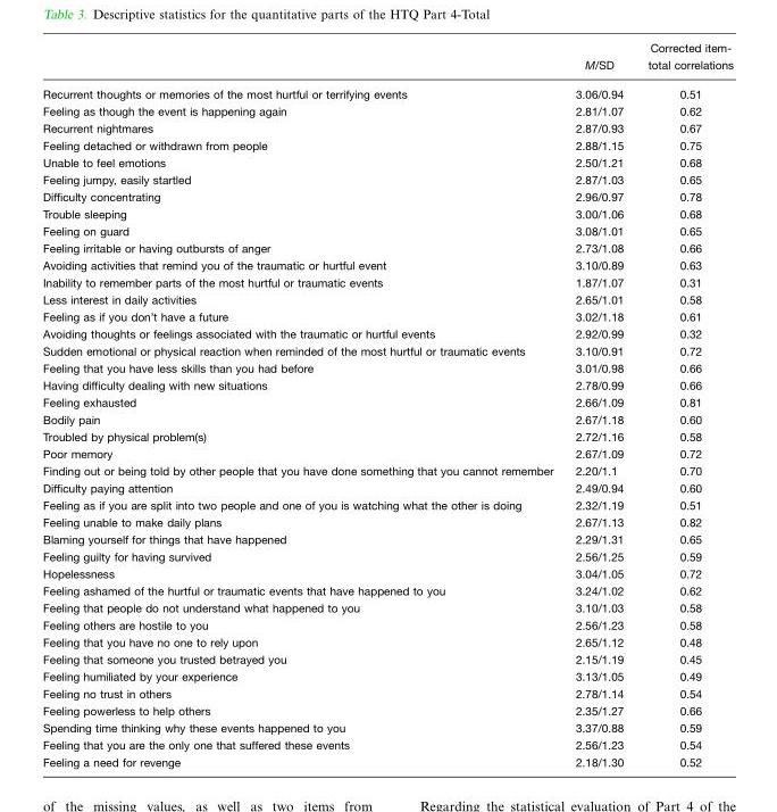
<table><thead><tr><td></td><td>M/SD</td><td>Corrected item- total correlations</td></tr></thead><tbody><tr><td>Recurrent thoughts or memories of the most hurtful or terrifying events</td><td>3.06/0.94</td><td>0.51</td></tr><tr><td>Feeling as though the event is happening again</td><td>2.81/1.07</td><td>0.62</td></tr><tr><td>Recurrent nightmares</td><td>2.87/0.93</td><td>0.67</td></tr><tr><td>Feeling detached or withdrawn from people</td><td>2.88/1.15</td><td>0.75</td></tr><tr><td>Unable to feel emotions</td><td>2.50/1.21</td><td>0.68</td></tr><tr><td>Feeling jumpy, easily startled</td><td>2.87/1.03</td><td>0.65</td></tr><tr><td>Difficulty concentrating</td><td>2.96/0.97</td><td>0.78</td></tr><tr><td>Trouble sleeping</td><td>3.00/1.06</td><td>0.68</td></tr><tr><td>Feeling on guard</td><td>3.08/1.01</td><td>0.65</td></tr><tr><td>Feeling irritable or having outbursts of anger</td><td>2.73/1.08</td><td>0.66</td></tr><tr><td>Avoiding activities that remind you of the traumatic or hurtful event</td><td>3.10/0.89</td><td>0.63</td></tr><tr><td>Inability to remember parts of the most hurtful or traumatic events</td><td>1.87/1.07</td><td>0.31</td></tr><tr><td>Less interest in daily activities</td><td>2.65/1.01</td><td>0.58</td></tr><tr><td>Feeling as if you don’t have a future</td><td>3.02/1.18</td><td>0.61</td></tr><tr><td>Avoiding thoughts or feelings associated with the traumatic or hurtful events</td><td>2.92/0.99</td><td>0.32</td></tr><tr><td>Sudden emotional or physical reaction when reminded of the most hurtful or traumatic events</td><td>3.10/0.91</td><td>0.72</td></tr><tr><td>Feeling that you have less skills than you had before</td><td>3.01/0.98</td><td>0.66</td></tr><tr><td>Having difficulty dealing with new situations</td><td>2.78/0.99</td><td>0.66</td></tr><tr><td>Feeling exhausted</td><td>2.66/1.09</td><td>0.81</td></tr><tr><td>Bodily pain</td><td>2.67/1.18</td><td>0.60</td></tr><tr><td>Troubled by physical problem(s)</td><td>2.72/1.16</td><td>0.58</td></tr><tr><td>Poor memory</td><td>2.67/1.09</td><td>0.72</td></tr><tr><td>Finding out or being told by other people that you have done something that you cannot remember</td><td>2.20/1.1</td><td>0.70</td></tr><tr><td>Difficulty paying attention</td><td>2.49/0.94</td><td>0.60</td></tr><tr><td>Feeling as if you are split into two people and one of you is watching what the other is doing</td><td>2.32/1.19</td><td>0.51</td></tr><tr><td>Feeling unable to make daily plans</td><td>2.67/1.13</td><td>0.82</td></tr><tr><td>Blaming yourself for things that have happened</td><td>2.29/1.31</td><td>0.65</td></tr><tr><td>Feeling guilty for having survived</td><td>2.56/1.25</td><td>0.59</td></tr><tr><td>Hopelessness</td><td>3.04/1.05</td><td>0.72</td></tr><tr><td>Feeling ashamed of the hurtful or traumatic events that have happened to you</td><td>3.24/1.02</td><td>0.62</td></tr><tr><td>Feeling that people do not understand what happened to you</td><td>3.10/1.03</td><td>0.58</td></tr><tr><td>Feeling others are hostile to you</td><td>2.56/1.23</td><td>0.58</td></tr><tr><td>Feeling that you have no one to rely upon</td><td>2.65/1.12</td><td>0.48</td></tr><tr><td>Feeling that someone you trusted betrayed you</td><td>2.15/1.19</td><td>0.45</td></tr><tr><td>Feeling humiliated by your experience</td><td>3.13/1.05</td><td>0.49</td></tr><tr><td>Feeling no trust in others</td><td>2.78/1.14</td><td>0.54</td></tr><tr><td>Feeling powerless to help others</td><td>2.35/1.27</td><td>0.66</td></tr><tr><td>Spending time thinking why these events happened to you</td><td>3.37/0.88</td><td>0.59</td></tr><tr><td>Feeling that you are the only one that suffered these events</td><td>2.56/1.23</td><td>0.54</td></tr><tr><td>Feeling a need for revenge</td><td>2.18/1.30</td><td>0.52</td></tr></tbody></table>